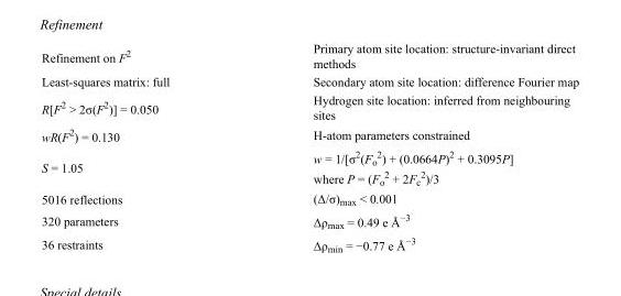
<table><tbody><tr><td>Refinement on F<sup>2</sup></td><td>Primary atom site location: structure-invariant direct methods</td></tr><tr><td>Least-squares matrix: full</td><td>Secondary atom site location: difference Fourier map</td></tr><tr><td>R[F<sup>2</sup> &gt; 2σ(F<sup>2</sup>)] = 0.050</td><td>Hydrogen site location: inferred from neighbouring sites</td></tr><tr><td>wR(F<sup>2</sup>) = 0.130</td><td>H-atom parameters constrained</td></tr><tr><td>S = 1.05</td><td>w = 1/[σ<sup>2</sup>(F<sub>o</sub> <sup>2</sup>) + (0.0664P)<sup>2</sup> + 0.3095P] where P = (F<sub>o</sub> <sup>2</sup> + 2F<sub>c</sub> <sup>2</sup>)/3</td></tr><tr><td>5016 reflections</td><td>(Δ/σ)<sub>max</sub> &lt; 0.001</td></tr><tr><td>320 parameters</td><td>Δρ<sub>max</sub> = 0.49 e Å<sup>−3</sup></td></tr><tr><td>36 restraints</td><td>Δρ<sub>min</sub> = −0.77 e Å<sup>−3</sup></td></tr></tbody></table>